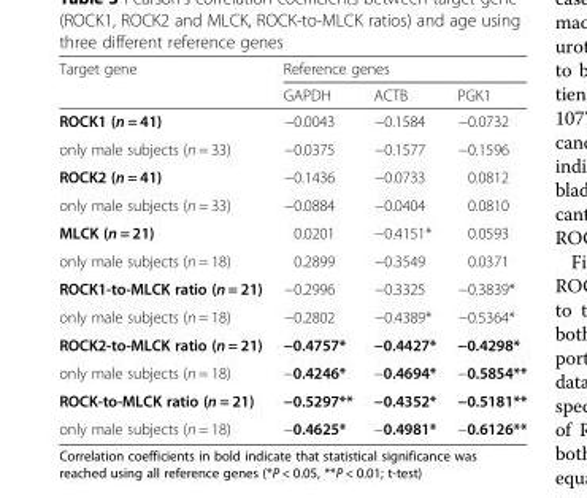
<table><thead><tr><td rowspan="2">Target gene</td><td colspan="3">Reference genes</td></tr><tr><td>GAPDH</td><td>ACTB</td><td>PGK1</td></tr></thead><tbody><tr><td>ROCK1 (n = 41)</td><td>−0.0043</td><td>−0.1584</td><td>−0.0732</td></tr><tr><td>only male subjects (n = 33)</td><td>−0.0375</td><td>−0.1577</td><td>−0.1596</td></tr><tr><td>ROCK2 (n = 41)</td><td>−0.1436</td><td>−0.0733</td><td>0.0812</td></tr><tr><td>only male subjects (n = 33)</td><td>−0.0884</td><td>−0.0404</td><td>0.0810</td></tr><tr><td>MLCK (n = 21)</td><td>0.0201</td><td>−0.4151*</td><td>0.0593</td></tr><tr><td>only male subjects (n = 18)</td><td>0.2899</td><td>−0.3549</td><td>0.0371</td></tr><tr><td>ROCK1-to-MLCK ratio (n = 21)</td><td>−0.2996</td><td>−0.3325</td><td>−0.3839*</td></tr><tr><td>only male subjects (n = 18)</td><td>−0.2802</td><td>−0.4389*</td><td>−0.5364*</td></tr><tr><td>ROCK2-to-MLCK ratio (n = 21)</td><td>−0.4757*</td><td>−0.4427*</td><td>−0.4298*</td></tr><tr><td>only male subjects (n = 18)</td><td>−0.4246*</td><td>−0.4694*</td><td>−0.5854**</td></tr><tr><td>ROCK-to-MLCK ratio (n = 21)</td><td>−0.5297**</td><td>−0.4352*</td><td>−0.5181**</td></tr><tr><td>only male subjects (n = 18)</td><td>−0.4625*</td><td>−0.4981*</td><td>−0.6126**</td></tr></tbody></table>